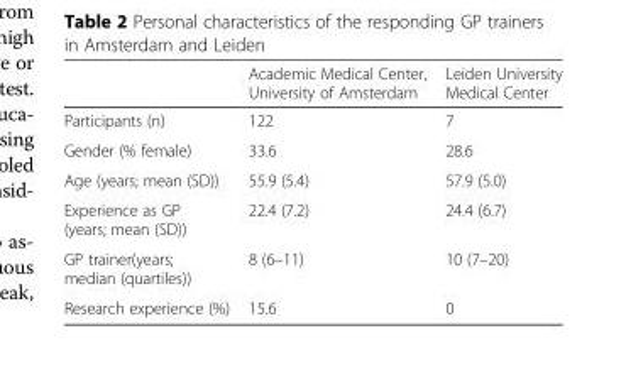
<table><thead><tr><td></td><td>Academic Medical Center, University of Amsterdam</td><td>Leiden University Medical Center</td></tr></thead><tbody><tr><td>Participants (n)</td><td>122</td><td>7</td></tr><tr><td>Gender (% female)</td><td>33.6</td><td>28.6</td></tr><tr><td>Age (years; mean (SD))</td><td>55.9 (5.4)</td><td>57.9 (5.0)</td></tr><tr><td>Experience as GP (years; mean (SD))</td><td>22.4 (7.2)</td><td>24.4 (6.7)</td></tr><tr><td>GP trainer(years; median (quartiles))</td><td>8 (6–11)</td><td>10 (7–20)</td></tr><tr><td>Research experience (%)</td><td>15.6</td><td>0</td></tr></tbody></table>